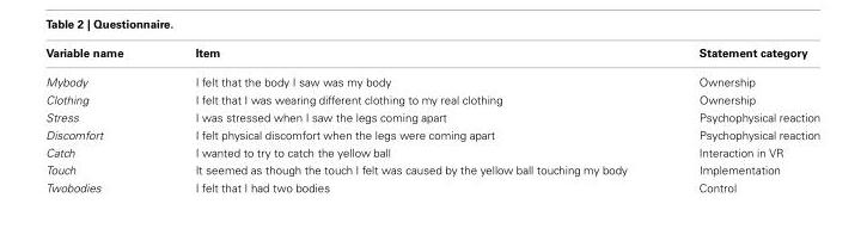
<table><thead><tr><td>Variable name</td><td>Item</td><td>Statement category</td></tr></thead><tbody><tr><td>Mybody</td><td>I felt that the body I saw was my body</td><td>Ownership</td></tr><tr><td>Clothing</td><td>I felt that I was wearing different clothing to my real clothing</td><td>Ownership</td></tr><tr><td>Stress</td><td>I was stressed when I saw the legs coming apart</td><td>Psychophysical reaction</td></tr><tr><td>Discomfort</td><td>I felt physical discomfort when the legs were coming apart</td><td>Psychophysical reaction</td></tr><tr><td>Catch</td><td>I wanted to try to catch the yellow ball</td><td>Interaction in VR</td></tr><tr><td>Touch</td><td>It seemed as though the touch I felt was caused by the yellow ball touching my body</td><td>Implementation</td></tr><tr><td>Twobodies</td><td>I felt that I had two bodies</td><td>Control</td></tr></tbody></table>